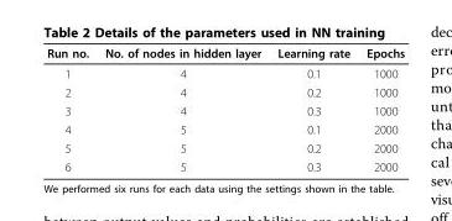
<table><thead><tr><td>Run no.</td><td>No. of nodes in hidden layer</td><td>Learning rate</td><td>Epochs</td></tr></thead><tbody><tr><td>1</td><td>4</td><td>0.1</td><td>1000</td></tr><tr><td>2</td><td>4</td><td>0.2</td><td>1000</td></tr><tr><td>3</td><td>4</td><td>0.3</td><td>1000</td></tr><tr><td>4</td><td>5</td><td>0.1</td><td>2000</td></tr><tr><td>5</td><td>5</td><td>0.2</td><td>2000</td></tr><tr><td>6</td><td>5</td><td>0.3</td><td>2000</td></tr></tbody></table>